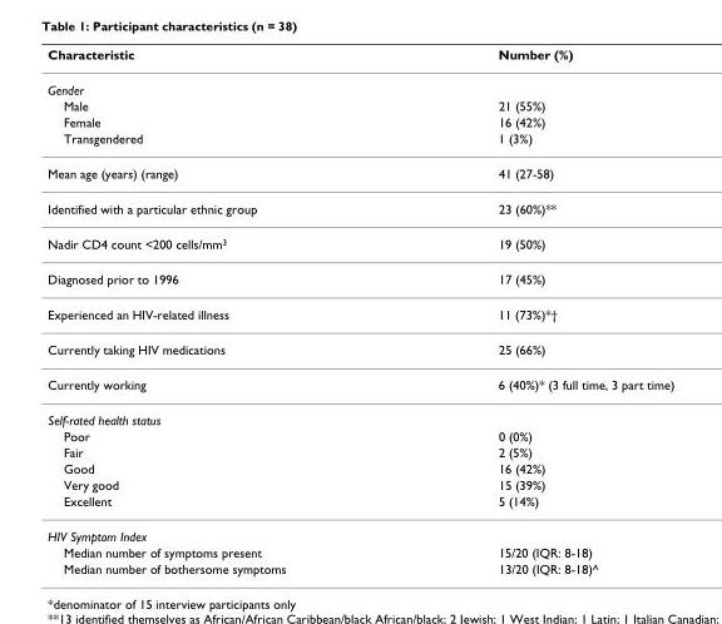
<table><thead><tr><td>Characteristic</td><td>Number (%)</td></tr></thead><tbody><tr><td colspan="2">Gender</td></tr><tr><td>Male</td><td>21 (55%)</td></tr><tr><td>Female</td><td>16 (42%)</td></tr><tr><td>Transgendered</td><td>1 (3%)</td></tr><tr><td>Mean age (years) (range)</td><td>41 (27-58)</td></tr><tr><td>Identified with a particular ethnic group</td><td>23 (60%)**</td></tr><tr><td>Nadir CD4 count &lt;200 cells/mm<sup>3</sup></td><td>19 (50%)</td></tr><tr><td>Diagnosed prior to 1996</td><td>17 (45%)</td></tr><tr><td>Experienced an HIV-related illness</td><td>11 (73%)*†</td></tr><tr><td>Currently taking HIV medications</td><td>25 (66%)</td></tr><tr><td>Currently working</td><td>6 (40%)* (3 full time, 3 part time)</td></tr><tr><td colspan="2">Self-rated health status</td></tr><tr><td>Poor</td><td>0 (0%)</td></tr><tr><td>Fair</td><td>2 (5%)</td></tr><tr><td>Good</td><td>16 (42%)</td></tr><tr><td>Very good</td><td>15 (39%)</td></tr><tr><td>Excellent</td><td>5 (14%)</td></tr><tr><td colspan="2">HIV Symptom Index</td></tr><tr><td>Median number of symptoms present</td><td>15/20 (IQR: 8-18)</td></tr><tr><td>Median number of bothersome symptoms</td><td>13/20 (IQR: 8-18)^</td></tr></tbody></table>